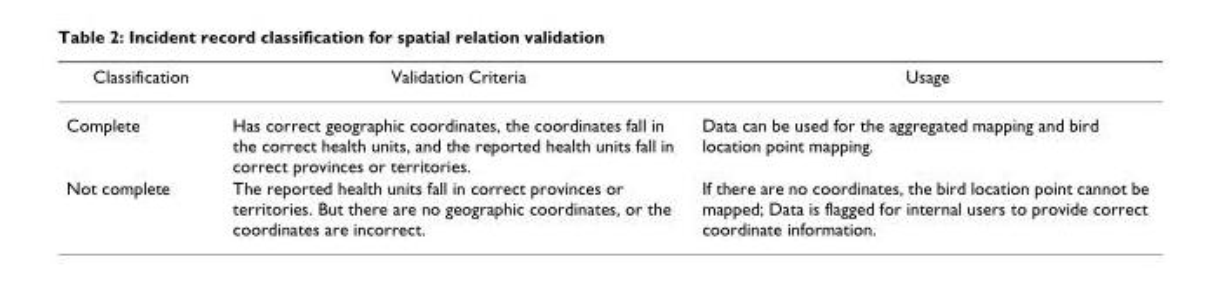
<table><thead><tr><td>Classification</td><td>Validation Criteria</td><td>Usage</td></tr></thead><tbody><tr><td>Complete</td><td>Has correct geographic coordinates, the coordinates fall in the correct health units, and the reported health units fall in correct provinces or territories.</td><td>Data can be used for the aggregated mapping and bird location point mapping.</td></tr><tr><td>Not complete</td><td>The reported health units fall in correct provinces or territories. But there are no geographic coordinates, or the coordinates are incorrect.</td><td>If there are no coordinates, the bird location point cannot be mapped; Data is flagged for internal users to provide correct coordinate information.</td></tr></tbody></table>